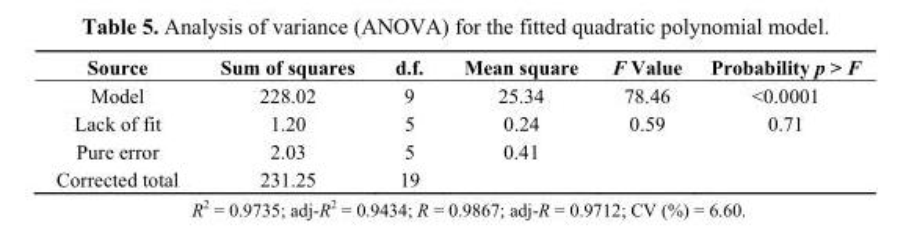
<table><thead><tr><td>Source</td><td>Sum of squares</td><td>d.f.</td><td>Mean square</td><td>F Value</td><td>Probability p &gt; F</td></tr></thead><tbody><tr><td>Model</td><td>228.02</td><td>9</td><td>25.34</td><td>78.46</td><td>&lt;0.0001</td></tr><tr><td>Lack of fit</td><td>1.20</td><td>5</td><td>0.24</td><td>0.59</td><td>0.71</td></tr><tr><td>Pure error</td><td>2.03</td><td>5</td><td>0.41</td><td></td><td></td></tr><tr><td>Corrected total</td><td>231.25</td><td>19</td><td></td><td></td><td></td></tr></tbody></table>